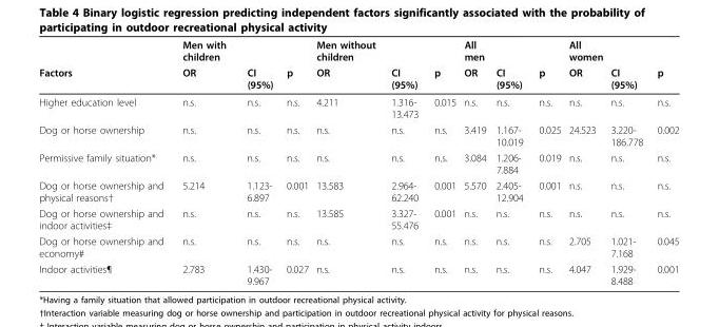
<table><thead><tr><td rowspan="2">Factors</td><td rowspan="2">Men with children OR</td><td rowspan="2">CI (95%)</td><td rowspan="2">p</td><td rowspan="2">Men without children OR</td><td rowspan="2">CI (95%)</td><td rowspan="2">p</td><td rowspan="2">All men OR</td><td rowspan="2">CI (95%)</td><td rowspan="2">p</td><td rowspan="2">All women OR</td><td rowspan="2">CI (95%)</td><td rowspan="2">p</td></tr><tr></tr></thead><tbody><tr><td>Higher education level</td><td>n.s.</td><td>n.s.</td><td>n.s.</td><td>4.211</td><td>1.316- 13.473</td><td>0.015</td><td>n.s.</td><td>n.s.</td><td>n.s.</td><td>n.s.</td><td>n.s.</td><td>n.s.</td></tr><tr><td>Dog or horse ownership</td><td>n.s.</td><td>n.s.</td><td>n.s.</td><td>n.s.</td><td>n.s.</td><td>n.s.</td><td>3.419</td><td>1.167- 10.019</td><td>0.025</td><td>24.523</td><td>3.220- 186.778</td><td>0.002</td></tr><tr><td>Permissive family situation*</td><td>n.s.</td><td>n.s.</td><td>n.s.</td><td>n.s.</td><td>n.s.</td><td>n.s.</td><td>3.084</td><td>1.206- 7.884</td><td>0.019</td><td>n.s.</td><td>n.s.</td><td>n.s.</td></tr><tr><td>Dog or horse ownership and physical reasons†</td><td>5.214</td><td>1.123- 6.897</td><td>0.001</td><td>13.583</td><td>2.964- 62.240</td><td>0.001</td><td>5.570</td><td>2.405- 12.904</td><td>0.001</td><td>n.s.</td><td>n.s.</td><td>n.s.</td></tr><tr><td>Dog or horse ownership and indoor activities‡</td><td>n.s.</td><td>n.s.</td><td>n.s.</td><td>13.585</td><td>3.327- 55.476</td><td>0.001</td><td>n.s.</td><td>n.s.</td><td>n.s.</td><td>n.s.</td><td>n.s.</td><td>n.s.</td></tr><tr><td>Dog or horse ownership and economy#</td><td>n.s.</td><td>n.s.</td><td>n.s.</td><td>n.s.</td><td>n.s.</td><td>n.s.</td><td>n.s.</td><td>n.s.</td><td>n.s.</td><td>2.705</td><td>1.021- 7.168</td><td>0.045</td></tr><tr><td>Indoor activities¶</td><td>2.783</td><td>1.430- 9.967</td><td>0.027</td><td>n.s.</td><td>n.s.</td><td>n.s.</td><td>n.s.</td><td>n.s.</td><td>n.s.</td><td>4.047</td><td>1.929- 8.488</td><td>0.001</td></tr></tbody></table>